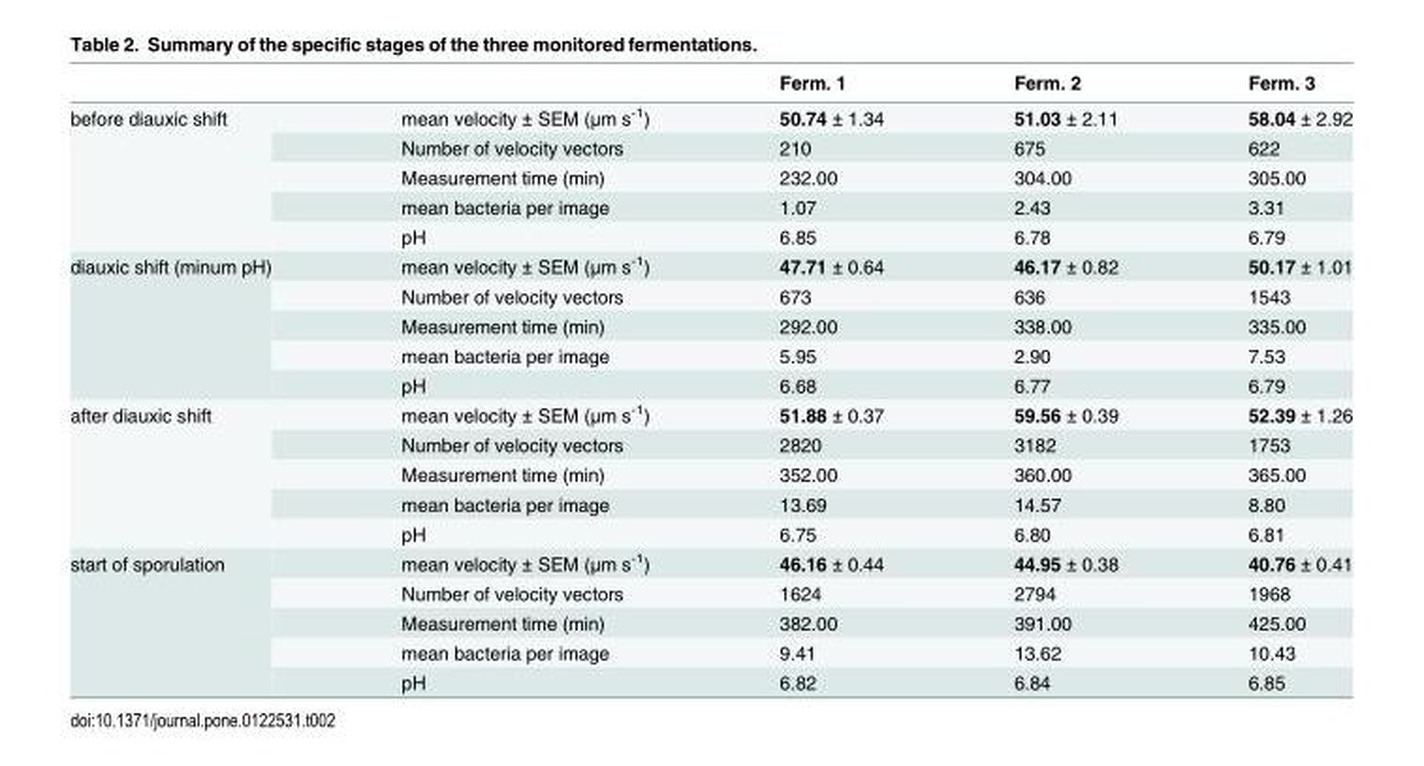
<table><thead><tr><td></td><td></td><td>Ferm. 1</td><td>Ferm. 2</td><td>Ferm. 3</td></tr></thead><tbody><tr><td rowspan="5">before diauxic shift</td><td>mean velocity ± SEM (μm s<sup>-1</sup>)</td><td>50.74 ± 1.34</td><td>51.03 ± 2.11</td><td>58.04 ± 2.92</td></tr><tr><td>Number of velocity vectors</td><td>210</td><td>675</td><td>622</td></tr><tr><td>Measurement time (min)</td><td>232.00</td><td>304.00</td><td>305.00</td></tr><tr><td>mean bacteria per image</td><td>1.07</td><td>2.43</td><td>3.31</td></tr><tr><td>pH</td><td>6.85</td><td>6.78</td><td>6.79</td></tr><tr><td rowspan="5">diauxic shift (minum pH)</td><td>mean velocity ± SEM (μm s<sup>-1</sup>)</td><td>47.71 ± 0.64</td><td>46.17 ± 0.82</td><td>50.17 ± 1.01</td></tr><tr><td>Number of velocity vectors</td><td>673</td><td>636</td><td>1543</td></tr><tr><td>Measurement time (min)</td><td>292.00</td><td>338.00</td><td>335.00</td></tr><tr><td>mean bacteria per image</td><td>5.95</td><td>2.90</td><td>7.53</td></tr><tr><td>pH</td><td>6.68</td><td>6.77</td><td>6.79</td></tr><tr><td rowspan="5">after diauxic shift</td><td>mean velocity ± SEM (μm s<sup>-1</sup>)</td><td>51.88 ± 0.37</td><td>59.56 ± 0.39</td><td>52.39 ± 1.26</td></tr><tr><td>Number of velocity vectors</td><td>2820</td><td>3182</td><td>1753</td></tr><tr><td>Measurement time (min)</td><td>352.00</td><td>360.00</td><td>365.00</td></tr><tr><td>mean bacteria per image</td><td>13.69</td><td>14.57</td><td>8.80</td></tr><tr><td>pH</td><td>6.75</td><td>6.80</td><td>6.81</td></tr><tr><td rowspan="5">start of sporulation</td><td>mean velocity ± SEM (μm s<sup>-1</sup>)</td><td>46.16 ± 0.44</td><td>44.95 ± 0.38</td><td>40.76 ± 0.41</td></tr><tr><td>Number of velocity vectors</td><td>1624</td><td>2794</td><td>1968</td></tr><tr><td>Measurement time (min)</td><td>382.00</td><td>391.00</td><td>425.00</td></tr><tr><td>mean bacteria per image</td><td>9.41</td><td>13.62</td><td>10.43</td></tr><tr><td>pH</td><td>6.82</td><td>6.84</td><td>6.85</td></tr></tbody></table>